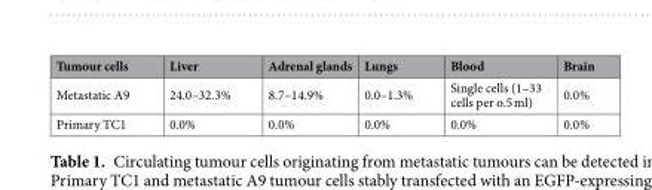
<table><thead><tr><td>Tumour cells</td><td>Liver</td><td>Adrenal glands</td><td>Lungs</td><td>Blood</td><td>Brain</td></tr></thead><tbody><tr><td>Metastatic A9</td><td>24.0–32.3%</td><td>8.7–14.9%</td><td>0.0–1.3%</td><td>Single cells (1–33 cells per o.5 ml)</td><td>0.0%</td></tr><tr><td>Primary TC1</td><td>0.0%</td><td>0.0%</td><td>0.0%</td><td>0.0%</td><td>0.0%</td></tr></tbody></table>